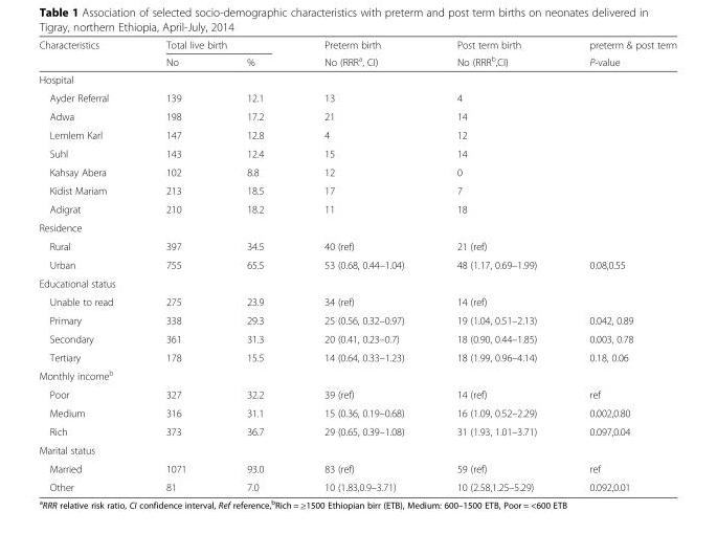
<table><thead><tr><td rowspan="2">Characteristics</td><td colspan="2">Total live birth</td><td rowspan="2">Preterm birth No (RRR<sup>a</sup>, CI)</td><td rowspan="2">Post term birth No (RRR<sup>b</sup>,CI)</td><td rowspan="2">preterm &amp; post term P-value</td></tr><tr><td>No</td><td>%</td></tr></thead><tbody><tr><td colspan="6">Hospital</td></tr><tr><td>Ayder Referral</td><td>139</td><td>12.1</td><td>13</td><td>4</td><td></td></tr><tr><td>Adwa</td><td>198</td><td>17.2</td><td>21</td><td>14</td><td></td></tr><tr><td>Lemlem Karl</td><td>147</td><td>12.8</td><td>4</td><td>12</td><td></td></tr><tr><td>Suhl</td><td>143</td><td>12.4</td><td>15</td><td>14</td><td></td></tr><tr><td>Kahsay Abera</td><td>102</td><td>8.8</td><td>12</td><td>0</td><td></td></tr><tr><td>Kidist Mariam</td><td>213</td><td>18.5</td><td>17</td><td>7</td><td></td></tr><tr><td>Adigrat</td><td>210</td><td>18.2</td><td>11</td><td>18</td><td></td></tr><tr><td colspan="6">Residence</td></tr><tr><td>Rural</td><td>397</td><td>34.5</td><td>40 (ref)</td><td>21 (ref)</td><td></td></tr><tr><td>Urban</td><td>755</td><td>65.5</td><td>53 (0.68, 0.44–1.04)</td><td>48 (1.17, 0.69–1.99)</td><td>0.08,0.55</td></tr><tr><td colspan="6">Educational status</td></tr><tr><td>Unable to read</td><td>275</td><td>23.9</td><td>34 (ref)</td><td>14 (ref)</td><td></td></tr><tr><td>Primary</td><td>338</td><td>29.3</td><td>25 (0.56, 0.32–0.97)</td><td>19 (1.04, 0.51–2.13)</td><td>0.042, 0.89</td></tr><tr><td>Secondary</td><td>361</td><td>31.3</td><td>20 (0.41, 0.23–0.7)</td><td>18 (0.90, 0.44–1.85)</td><td>0.003, 0.78</td></tr><tr><td>Tertiary</td><td>178</td><td>15.5</td><td>14 (0.64, 0.33–1.23)</td><td>18 (1.99, 0.96–4.14)</td><td>0.18, 0.06</td></tr><tr><td colspan="6">Monthly income<sup>b</sup></td></tr><tr><td>Poor</td><td>327</td><td>32.2</td><td>39 (ref)</td><td>14 (ref)</td><td>ref</td></tr><tr><td>Medium</td><td>316</td><td>31.1</td><td>15 (0.36, 0.19–0.68)</td><td>16 (1.09, 0.52–2.29)</td><td>0.002,0.80</td></tr><tr><td>Rich</td><td>373</td><td>36.7</td><td>29 (0.65, 0.39–1.08)</td><td>31 (1.93, 1.01–3.71)</td><td>0.097,0.04</td></tr><tr><td colspan="6">Marital status</td></tr><tr><td>Married</td><td>1071</td><td>93.0</td><td>83 (ref)</td><td>59 (ref)</td><td>ref</td></tr><tr><td>Other</td><td>81</td><td>7.0</td><td>10 (1.83,0.9–3.71)</td><td>10 (2.58,1.25–5.29)</td><td>0.092,0.01</td></tr></tbody></table>